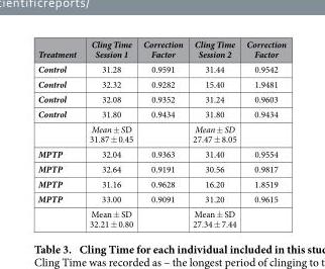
<table><thead><tr><td>Treatment</td><td>Cling Time Session 1</td><td>Correction Factor</td><td>Cling Time Session 2</td><td>Correction Factor</td></tr></thead><tbody><tr><td>Control</td><td>31.28</td><td>0.9591</td><td>31.44</td><td>0.9542</td></tr><tr><td>Control</td><td>32.32</td><td>0.9282</td><td>15.40</td><td>1.9481</td></tr><tr><td>Control</td><td>32.08</td><td>0.9352</td><td>31.24</td><td>0.9603</td></tr><tr><td rowspan="2">Control</td><td>31.80</td><td>0.9434</td><td>31.80</td><td>0.9434</td></tr><tr><td>Mean ± SD 31.87 ± 0.45</td><td></td><td>Mean ± SD 27.47 ± 8.05</td><td></td></tr><tr><td>MPTP</td><td>32.04</td><td>0.9363</td><td>31.40</td><td>0.9554</td></tr><tr><td>MPTP</td><td>32.64</td><td>0.9191</td><td>30.56</td><td>0.9817</td></tr><tr><td>MPTP</td><td>31.16</td><td>0.9628</td><td>16.20</td><td>1.8519</td></tr><tr><td rowspan="2">MPTP</td><td>33.00</td><td>0.9091</td><td>31.20</td><td>0.9615</td></tr><tr><td>Mean ± SD 32.21 ± 0.80</td><td></td><td>Mean ± SD 27.34 ± 7.44</td><td></td></tr></tbody></table>